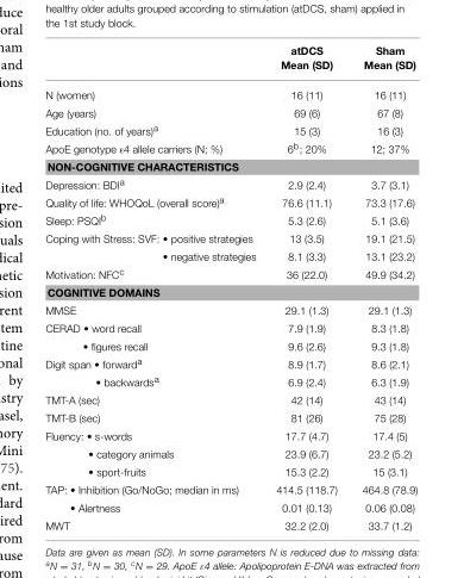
<table><thead><tr><td></td><td>atDCS Mean (SD)</td><td>Sham Mean (SD)</td></tr></thead><tbody><tr><td>N (women)</td><td>16 (11)</td><td>16 (11)</td></tr><tr><td>Age (years)</td><td>69 (6)</td><td>67 (8)</td></tr><tr><td>Education (no. of years)<sup>a</sup></td><td>15 (3)</td><td>16 (3)</td></tr><tr><td>ApoE genotype ε4 allele carriers (N; %)</td><td>6<sup>b</sup>; 20%</td><td>12; 37%</td></tr><tr><td colspan="3">NON-COGNITIVE CHARACTERISTICS</td></tr><tr><td>Depression: BDI<sup>a</sup></td><td>2.9 (2.4)</td><td>3.7 (3.1)</td></tr><tr><td>Quality of life: WHOQoL (overall score)<sup>a</sup></td><td>76.6 (11.1)</td><td>73.3 (17.6)</td></tr><tr><td>Sleep: PSQI<sup>b</sup></td><td>5.3 (2.6)</td><td>5.1 (3.6)</td></tr><tr><td>Coping with Stress: SVF: • positive strategies</td><td>13 (3.5)</td><td>19.1 (21.5)</td></tr><tr><td>• negative strategies</td><td>8.1 (3.3)</td><td>13.1 (23.2)</td></tr><tr><td>Motivation: NFC<sup>c</sup></td><td>36 (22.0)</td><td>49.9 (34.2)</td></tr><tr><td colspan="3">COGNITIVE DOMAINS</td></tr><tr><td>MMSE</td><td>29.1 (1.3)</td><td>29.1 (1.3)</td></tr><tr><td>CERAD • word recall</td><td>7.9 (1.9)</td><td>8.3 (1.8)</td></tr><tr><td>• figures recall</td><td>9.6 (2.6)</td><td>9.3 (1.8)</td></tr><tr><td>Digit span • forward<sup>a</sup></td><td>8.9 (1.7)</td><td>8.6 (2.1)</td></tr><tr><td>• backwards<sup>a</sup></td><td>6.9 (2.4)</td><td>6.3 (1.9)</td></tr><tr><td>TMT-A (sec)</td><td>42 (14)</td><td>43 (14)</td></tr><tr><td>TMT-B (sec)</td><td>81 (26)</td><td>75 (28)</td></tr><tr><td>Fluency: • s-words</td><td>17.7 (4.7)</td><td>17.4 (5)</td></tr><tr><td>• category animals</td><td>23.9 (6.7)</td><td>23.2 (5.2)</td></tr><tr><td>• sport-fruits</td><td>15.3 (2.2)</td><td>15 (3.1)</td></tr><tr><td>TAP: • Inhibition (Go/NoGo; median in ms)</td><td>414.5 (118.7)</td><td>464.8 (78.9)</td></tr><tr><td>• Alertness</td><td>0.01 (0.13)</td><td>0.06 (0.08)</td></tr><tr><td>MWT</td><td>32.2 (2.0)</td><td>33.7 (1.2)</td></tr></tbody></table>